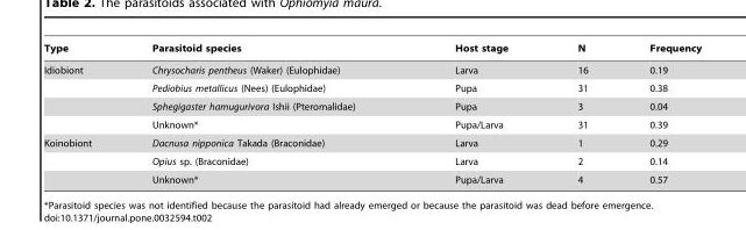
<table><thead><tr><td>Type</td><td>Parasitoid species</td><td>Host stage</td><td>N</td><td>Frequency</td></tr></thead><tbody><tr><td rowspan="4">Idiobiont</td><td>Chrysocharis pentheus (Waker) (Eulophidae)</td><td>Larva</td><td>16</td><td>0.19</td></tr><tr><td>Pediobius metallicus (Nees) (Eulophidae)</td><td>Pupa</td><td>31</td><td>0.38</td></tr><tr><td>Sphegigaster hamugurivora Ishii (Pteromalidae)</td><td>Pupa</td><td>3</td><td>0.04</td></tr><tr><td>Unknown*</td><td>Pupa/Larva</td><td>31</td><td>0.39</td></tr><tr><td rowspan="3">Koinobiont</td><td>Dacnusa nipponica Takada (Braconidae)</td><td>Larva</td><td>1</td><td>0.29</td></tr><tr><td>Opius sp. (Braconidae)</td><td>Larva</td><td>2</td><td>0.14</td></tr><tr><td>Unknown*</td><td>Pupa/Larva</td><td>4</td><td>0.57</td></tr></tbody></table>